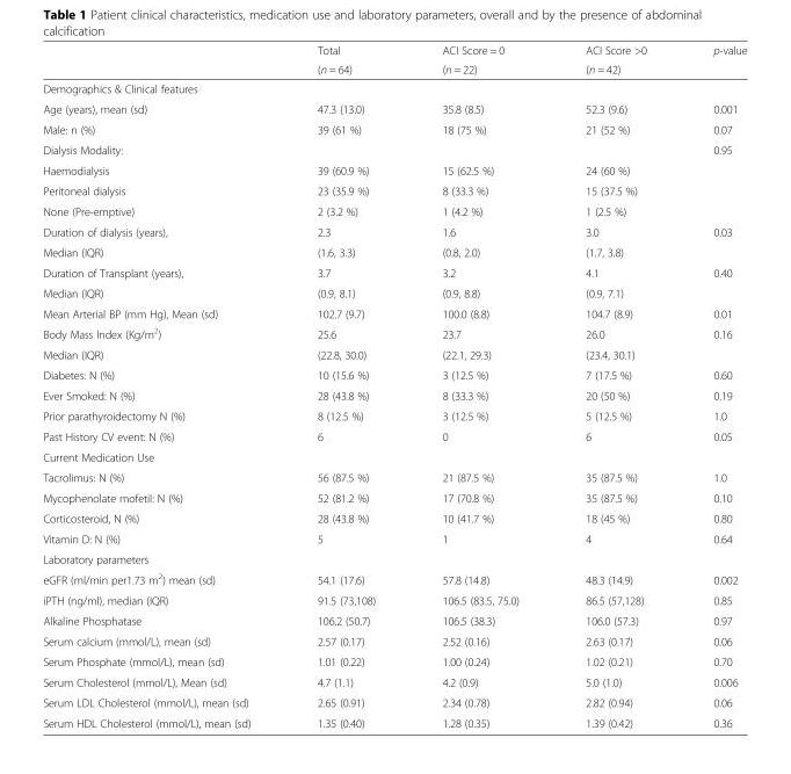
<table><thead><tr><td rowspan="2"></td><td rowspan="2">Total (n = 64)</td><td rowspan="2">ACI Score = 0 (n = 22)</td><td rowspan="2">ACI Score &gt;0 (n = 42)</td><td rowspan="2">p-value</td></tr><tr></tr></thead><tbody><tr><td colspan="5">Demographics &amp; Clinical features</td></tr><tr><td>Age (years), mean (sd)</td><td>47.3 (13.0)</td><td>35.8 (8.5)</td><td>52.3 (9.6)</td><td>0.001</td></tr><tr><td>Male: n (%)</td><td>39 (61 %)</td><td>18 (75 %)</td><td>21 (52 %)</td><td>0.07</td></tr><tr><td colspan="4">Dialysis Modality:</td><td rowspan="4">0.95</td></tr><tr><td>Haemodialysis</td><td>39 (60.9 %)</td><td>15 (62.5 %)</td><td>24 (60 %)</td></tr><tr><td>Peritoneal dialysis</td><td>23 (35.9 %)</td><td>8 (33.3 %)</td><td>15 (37.5 %)</td></tr><tr><td>None (Pre-emptive)</td><td>2 (3.2 %)</td><td>1 (4.2 %)</td><td>1 (2.5 %)</td></tr><tr><td>Duration of dialysis (years),</td><td>2.3</td><td>1.6</td><td>3.0</td><td rowspan="2">0.03</td></tr><tr><td>Median (IQR)</td><td>(1.6, 3.3)</td><td>(0.8, 2.0)</td><td>(1.7, 3.8)</td></tr><tr><td>Duration of Transplant (years),</td><td>3.7</td><td>3.2</td><td>4.1</td><td rowspan="2">0.40</td></tr><tr><td>Median (IQR)</td><td>(0.9, 8.1)</td><td>(0.9, 8.8)</td><td>(0.9, 7.1)</td></tr><tr><td>Mean Arterial BP (mm Hg), Mean (sd)</td><td>102.7 (9.7)</td><td>100.0 (8.8)</td><td>104.7 (8.9)</td><td>0.01</td></tr><tr><td>Body Mass Index (Kg/m<sup>2</sup>)</td><td>25.6</td><td>23.7</td><td>26.0</td><td rowspan="2">0.16</td></tr><tr><td>Median (IQR)</td><td>(22.8, 30.0)</td><td>(22.1, 29.3)</td><td>(23.4, 30.1)</td></tr><tr><td>Diabetes: N (%)</td><td>10 (15.6 %)</td><td>3 (12.5 %)</td><td>7 (17.5 %)</td><td>0.60</td></tr><tr><td>Ever Smoked: N (%)</td><td>28 (43.8 %)</td><td>8 (33.3 %)</td><td>20 (50 %)</td><td>0.19</td></tr><tr><td>Prior parathyroidectomy N (%)</td><td>8 (12.5 %)</td><td>3 (12.5 %)</td><td>5 (12.5 %)</td><td>1.0</td></tr><tr><td>Past History CV event: N (%)</td><td>6</td><td>0</td><td>6</td><td>0.05</td></tr><tr><td colspan="5">Current Medication Use</td></tr><tr><td>Tacrolimus: N (%)</td><td>56 (87.5 %)</td><td>21 (87.5 %)</td><td>35 (87.5 %)</td><td>1.0</td></tr><tr><td>Mycophenolate mofetil: N (%)</td><td>52 (81.2 %)</td><td>17 (70.8 %)</td><td>35 (87.5 %)</td><td>0.10</td></tr><tr><td>Corticosteroid, N (%)</td><td>28 (43.8 %)</td><td>10 (41.7 %)</td><td>18 (45 %)</td><td>0.80</td></tr><tr><td>Vitamin D: N (%)</td><td>5</td><td>1</td><td>4</td><td>0.64</td></tr><tr><td colspan="5">Laboratory parameters</td></tr><tr><td>eGFR (ml/min per1.73 m<sup>2</sup>) mean (sd)</td><td>54.1 (17.6)</td><td>57.8 (14.8)</td><td>48.3 (14.9)</td><td>0.002</td></tr><tr><td>iPTH (ng/ml), median (IQR)</td><td>91.5 (73,108)</td><td>106.5 (83.5, 75.0)</td><td>86.5 (57,128)</td><td>0.85</td></tr><tr><td>Alkaline Phosphatase</td><td>106.2 (50.7)</td><td>106.5 (38.3)</td><td>106.0 (57.3)</td><td>0.97</td></tr><tr><td>Serum calcium (mmol/L), mean (sd)</td><td>2.57 (0.17)</td><td>2.52 (0.16)</td><td>2.63 (0.17)</td><td>0.06</td></tr><tr><td>Serum Phosphate (mmol/L), mean (sd)</td><td>1.01 (0.22)</td><td>1.00 (0.24)</td><td>1.02 (0.21)</td><td>0.70</td></tr><tr><td>Serum Cholesterol (mmol/L), Mean (sd)</td><td>4.7 (1.1)</td><td>4.2 (0.9)</td><td>5.0 (1.0)</td><td>0.006</td></tr><tr><td>Serum LDL Cholesterol (mmol/L), mean (sd)</td><td>2.65 (0.91)</td><td>2.34 (0.78)</td><td>2.82 (0.94)</td><td>0.06</td></tr><tr><td>Serum HDL Cholesterol (mmol/L), mean (sd)</td><td>1.35 (0.40)</td><td>1.28 (0.35)</td><td>1.39 (0.42)</td><td>0.36</td></tr></tbody></table>